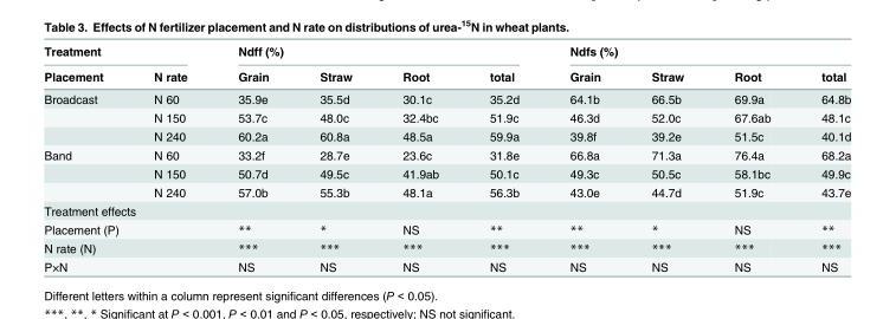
<table><thead><tr><td colspan="2">Treatment</td><td colspan="4">Ndff (%)</td><td colspan="4">Ndfs (%)</td></tr><tr><td>Placement</td><td>N rate</td><td>Grain</td><td>Straw</td><td>Root</td><td>total</td><td>Grain</td><td>Straw</td><td>Root</td><td>total</td></tr></thead><tbody><tr><td rowspan="3">Broadcast</td><td>N 60</td><td>35.9e</td><td>35.5d</td><td>30.1c</td><td>35.2d</td><td>64.1b</td><td>66.5b</td><td>69.9a</td><td>64.8b</td></tr><tr><td>N 150</td><td>53.7c</td><td>48.0c</td><td>32.4bc</td><td>51.9c</td><td>46.3d</td><td>52.0c</td><td>67.6ab</td><td>48.1c</td></tr><tr><td>N 240</td><td>60.2a</td><td>60.8a</td><td>48.5a</td><td>59.9a</td><td>39.8f</td><td>39.2e</td><td>51.5c</td><td>40.1d</td></tr><tr><td rowspan="3">Band</td><td>N 60</td><td>33.2f</td><td>28.7e</td><td>23.6c</td><td>31.8e</td><td>66.8a</td><td>71.3a</td><td>76.4a</td><td>68.2a</td></tr><tr><td>N 150</td><td>50.7d</td><td>49.5c</td><td>41.9ab</td><td>50.1c</td><td>49.3c</td><td>50.5c</td><td>58.1bc</td><td>49.9c</td></tr><tr><td>N 240</td><td>57.0b</td><td>55.3b</td><td>48.1a</td><td>56.3b</td><td>43.0e</td><td>44.7d</td><td>51.9c</td><td>43.7e</td></tr><tr><td colspan="10">Treatment effects</td></tr><tr><td colspan="2">Placement (P)</td><td>**</td><td>*</td><td>NS</td><td>**</td><td>**</td><td>*</td><td>NS</td><td>**</td></tr><tr><td colspan="2">N rate (N)</td><td>***</td><td>***</td><td>***</td><td>***</td><td>***</td><td>***</td><td>***</td><td>***</td></tr><tr><td colspan="2">P×N</td><td>NS</td><td>NS</td><td>NS</td><td>NS</td><td>NS</td><td>NS</td><td>NS</td><td>NS</td></tr></tbody></table>